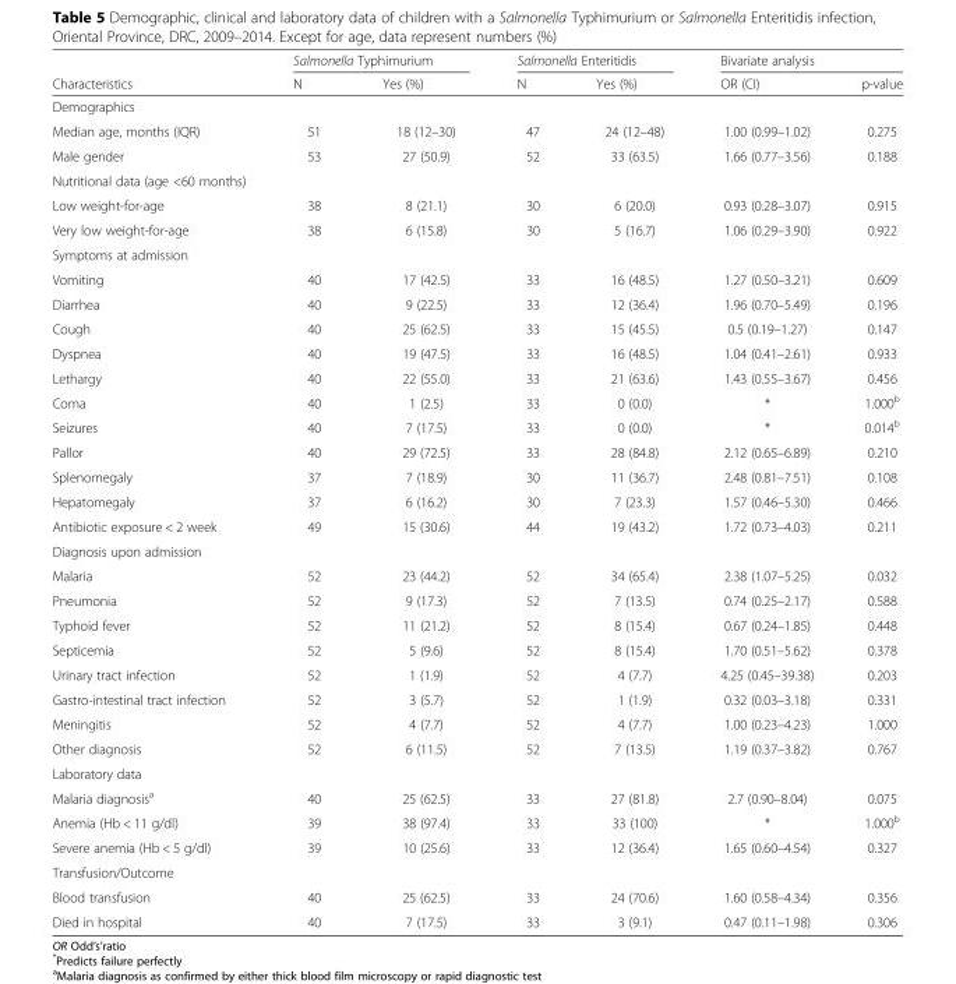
<table><thead><tr><td rowspan="2">Characteristics</td><td colspan="2">Salmonella Typhimurium</td><td colspan="2">Salmonella Enteritidis</td><td colspan="2">Bivariate analysis</td></tr><tr><td>N</td><td>Yes (%)</td><td>N</td><td>Yes (%)</td><td>OR (CI)</td><td>p-value</td></tr></thead><tbody><tr><td colspan="7">Demographics</td></tr><tr><td>Median age, months (IQR)</td><td>51</td><td>18 (12–30)</td><td>47</td><td>24 (12–48)</td><td>1.00 (0.99–1.02)</td><td>0.275</td></tr><tr><td>Male gender</td><td>53</td><td>27 (50.9)</td><td>52</td><td>33 (63.5)</td><td>1.66 (0.77–3.56)</td><td>0.188</td></tr><tr><td colspan="7">Nutritional data (age &lt;60 months)</td></tr><tr><td>Low weight-for-age</td><td>38</td><td>8 (21.1)</td><td>30</td><td>6 (20.0)</td><td>0.93 (0.28–3.07)</td><td>0.915</td></tr><tr><td>Very low weight-for-age</td><td>38</td><td>6 (15.8)</td><td>30</td><td>5 (16.7)</td><td>1.06 (0.29–3.90)</td><td>0.922</td></tr><tr><td colspan="7">Symptoms at admission</td></tr><tr><td>Vomiting</td><td>40</td><td>17 (42.5)</td><td>33</td><td>16 (48.5)</td><td>1.27 (0.50–3.21)</td><td>0.609</td></tr><tr><td>Diarrhea</td><td>40</td><td>9 (22.5)</td><td>33</td><td>12 (36.4)</td><td>1.96 (0.70–5.49)</td><td>0.196</td></tr><tr><td>Cough</td><td>40</td><td>25 (62.5)</td><td>33</td><td>15 (45.5)</td><td>0.5 (0.19–1.27)</td><td>0.147</td></tr><tr><td>Dyspnea</td><td>40</td><td>19 (47.5)</td><td>33</td><td>16 (48.5)</td><td>1.04 (0.41–2.61)</td><td>0.933</td></tr><tr><td>Lethargy</td><td>40</td><td>22 (55.0)</td><td>33</td><td>21 (63.6)</td><td>1.43 (0.55–3.67)</td><td>0.456</td></tr><tr><td>Coma</td><td>40</td><td>1 (2.5)</td><td>33</td><td>0 (0.0)</td><td>*</td><td>1.000<sup>b</sup></td></tr><tr><td>Seizures</td><td>40</td><td>7 (17.5)</td><td>33</td><td>0 (0.0)</td><td>*</td><td>0.014<sup>b</sup></td></tr><tr><td>Pallor</td><td>40</td><td>29 (72.5)</td><td>33</td><td>28 (84.8)</td><td>2.12 (0.65–6.89)</td><td>0.210</td></tr><tr><td>Splenomegaly</td><td>37</td><td>7 (18.9)</td><td>30</td><td>11 (36.7)</td><td>2.48 (0.81–7.51)</td><td>0.108</td></tr><tr><td>Hepatomegaly</td><td>37</td><td>6 (16.2)</td><td>30</td><td>7 (23.3)</td><td>1.57 (0.46–5.30)</td><td>0.466</td></tr><tr><td>Antibiotic exposure &lt; 2 week</td><td>49</td><td>15 (30.6)</td><td>44</td><td>19 (43.2)</td><td>1.72 (0.73–4.03)</td><td>0.211</td></tr><tr><td colspan="7">Diagnosis upon admission</td></tr><tr><td>Malaria</td><td>52</td><td>23 (44.2)</td><td>52</td><td>34 (65.4)</td><td>2.38 (1.07–5.25)</td><td>0.032</td></tr><tr><td>Pneumonia</td><td>52</td><td>9 (17.3)</td><td>52</td><td>7 (13.5)</td><td>0.74 (0.25–2.17)</td><td>0.588</td></tr><tr><td>Typhoid fever</td><td>52</td><td>11 (21.2)</td><td>52</td><td>8 (15.4)</td><td>0.67 (0.24–1.85)</td><td>0.448</td></tr><tr><td>Septicemia</td><td>52</td><td>5 (9.6)</td><td>52</td><td>8 (15.4)</td><td>1.70 (0.51–5.62)</td><td>0.378</td></tr><tr><td>Urinary tract infection</td><td>52</td><td>1 (1.9)</td><td>52</td><td>4 (7.7)</td><td>4.25 (0.45–39.38)</td><td>0.203</td></tr><tr><td>Gastro-intestinal tract infection</td><td>52</td><td>3 (5.7)</td><td>52</td><td>1 (1.9)</td><td>0.32 (0.03–3.18)</td><td>0.331</td></tr><tr><td>Meningitis</td><td>52</td><td>4 (7.7)</td><td>52</td><td>4 (7.7)</td><td>1.00 (0.23–4.23)</td><td>1.000</td></tr><tr><td>Other diagnosis</td><td>52</td><td>6 (11.5)</td><td>52</td><td>7 (13.5)</td><td>1.19 (0.37–3.82)</td><td>0.767</td></tr><tr><td colspan="7">Laboratory data</td></tr><tr><td>Malaria diagnosis<sup>a</sup></td><td>40</td><td>25 (62.5)</td><td>33</td><td>27 (81.8)</td><td>2.7 (0.90–8.04)</td><td>0.075</td></tr><tr><td>Anemia (Hb &lt; 11 g/dl)</td><td>39</td><td>38 (97.4)</td><td>33</td><td>33 (100)</td><td>*</td><td>1.000<sup>b</sup></td></tr><tr><td>Severe anemia (Hb &lt; 5 g/dl)</td><td>39</td><td>10 (25.6)</td><td>33</td><td>12 (36.4)</td><td>1.65 (0.60–4.54)</td><td>0.327</td></tr><tr><td colspan="7">Transfusion/Outcome</td></tr><tr><td>Blood transfusion</td><td>40</td><td>25 (62.5)</td><td>33</td><td>24 (70.6)</td><td>1.60 (0.58–4.34)</td><td>0.356</td></tr><tr><td>Died in hospital</td><td>40</td><td>7 (17.5)</td><td>33</td><td>3 (9.1)</td><td>0.47 (0.11–1.98)</td><td>0.306</td></tr></tbody></table>